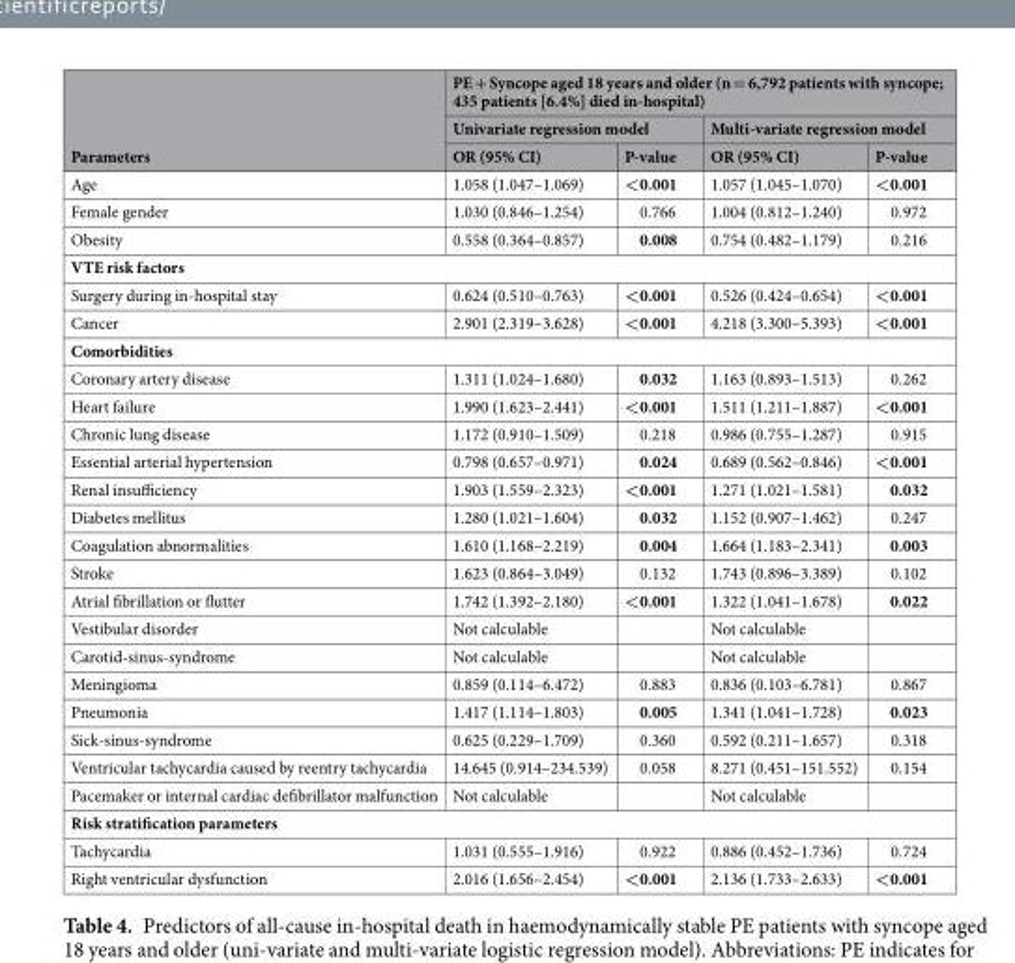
<table><thead><tr><td rowspan="3">Parameters</td><td colspan="4">PE + Syncope aged 18 years and older (n = 6,792 patients with syncope; 435 patients [6.4%] died in-hospital)</td></tr><tr><td colspan="2">Univariate regression model</td><td colspan="2">Multi-variate regression model</td></tr><tr><td>OR (95% CI)</td><td>P-value</td><td>OR (95% CI)</td><td>P-value</td></tr></thead><tbody><tr><td>Age</td><td>1.058 (1.047–1.069)</td><td>&lt;0.001</td><td>1.057 (1.045–1.070)</td><td>&lt;0.001</td></tr><tr><td>Female gender</td><td>1.030 (0.846–1.254)</td><td>0.766</td><td>1.004 (0.812–1.240)</td><td>0.972</td></tr><tr><td>Obesity</td><td>0.558 (0.364–0.857)</td><td>0.008</td><td>0.754 (0.482–1.179)</td><td>0.216</td></tr><tr><td colspan="5">VTE risk factors</td></tr><tr><td>Surgery during in-hospital stay</td><td>0.624 (0.510–0.763)</td><td>&lt;0.001</td><td>0.526 (0.424–0.654)</td><td>&lt;0.001</td></tr><tr><td>Cancer</td><td>2.901 (2.319–3.628)</td><td>&lt;0.001</td><td>4.218 (3.300–5.393)</td><td>&lt;0.001</td></tr><tr><td colspan="5">Comorbidities</td></tr><tr><td>Coronary artery disease</td><td>1.311 (1.024–1.680)</td><td>0.032</td><td>1.163 (0.893–1.513)</td><td>0.262</td></tr><tr><td>Heart failure</td><td>1.990 (1.623–2.441)</td><td>&lt;0.001</td><td>1.511 (1.211–1.887)</td><td>&lt;0.001</td></tr><tr><td>Chronic lung disease</td><td>1.172 (0.910–1.509)</td><td>0.218</td><td>0.986 (0.755–1.287)</td><td>0.915</td></tr><tr><td>Essential arterial hypertension</td><td>0.798 (0.657–0.971)</td><td>0.024</td><td>0.689 (0.562–0.846)</td><td>&lt;0.001</td></tr><tr><td>Renal insufficiency</td><td>1.903 (1.559–2.323)</td><td>&lt;0.001</td><td>1.271 (1.021–1.581)</td><td>0.032</td></tr><tr><td>Diabetes mellitus</td><td>1.280 (1.021–1.604)</td><td>0.032</td><td>1.152 (0.907–1.462)</td><td>0.247</td></tr><tr><td>Coagulation abnormalities</td><td>1.610 (1.168–2.219)</td><td>0.004</td><td>1.664 (1.183–2.341)</td><td>0.003</td></tr><tr><td>Stroke</td><td>1.623 (0.864–3.049)</td><td>0.132</td><td>1.743 (0.896–3.389)</td><td>0.102</td></tr><tr><td>Atrial fibrillation or flutter</td><td>1.742 (1.392–2.180)</td><td>&lt;0.001</td><td>1.322 (1.041–1.678)</td><td>0.022</td></tr><tr><td>Vestibular disorder</td><td>Not calculable</td><td></td><td>Not calculable</td><td></td></tr><tr><td>Carotid-sinus-syndrome</td><td>Not calculable</td><td></td><td>Not calculable</td><td></td></tr><tr><td>Meningioma</td><td>0.859 (0.114–6.472)</td><td>0.883</td><td>0.836 (0.103–6.781)</td><td>0.867</td></tr><tr><td>Pneumonia</td><td>1.417 (1.114–1.803)</td><td>0.005</td><td>1.341 (1.041–1.728)</td><td>0.023</td></tr><tr><td>Sick-sinus-syndrome</td><td>0.625 (0.229–1.709)</td><td>0.360</td><td>0.592 (0.211–1.657)</td><td>0.318</td></tr><tr><td>Ventricular tachycardia caused by reentry tachycardia</td><td>14.645 (0.914–234.539)</td><td>0.058</td><td>8.271 (0.451–151.552)</td><td>0.154</td></tr><tr><td>Pacemaker or internal cardiac defibrillator malfunction</td><td>Not calculable</td><td></td><td>Not calculable</td><td></td></tr><tr><td colspan="5">Risk stratification parameters</td></tr><tr><td>Tachycardia</td><td>1.031 (0.555–1.916)</td><td>0.922</td><td>0.886 (0.452–1.736)</td><td>0.724</td></tr><tr><td>Right ventricular dysfunction</td><td>2.016 (1.656–2.454)</td><td>&lt;0.001</td><td>2.136 (1.733–2.633)</td><td>&lt;0.001</td></tr></tbody></table>